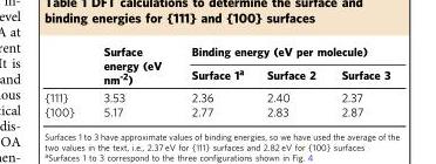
<table><thead><tr><td rowspan="2"></td><td rowspan="2">Surface energy (eV nm<sup>-2</sup>)</td><td colspan="3">Binding energy (eV per molecule)</td></tr><tr><td>Surface 1<sup>a</sup></td><td>Surface 2</td><td>Surface 3</td></tr></thead><tbody><tr><td>{111}</td><td>3.53</td><td>2.36</td><td>2.40</td><td>2.37</td></tr><tr><td>{100}</td><td>5.17</td><td>2.77</td><td>2.83</td><td>2.87</td></tr></tbody></table>